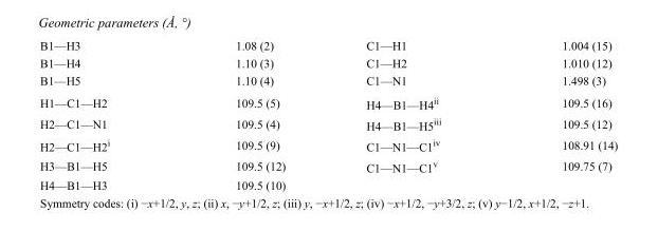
<table><tbody><tr><td>B1—H3</td><td>1.08 (2)</td><td>C1—H1</td><td>1.004 (15)</td></tr><tr><td>B1—H4</td><td>1.10 (3)</td><td>C1—H2</td><td>1.010 (12)</td></tr><tr><td>B1—H5</td><td>1.10 (4)</td><td>C1—N1</td><td>1.498 (3)</td></tr><tr><td>H1—C1—H2</td><td>109.5 (5)</td><td>H4—B1—H4<sup>ii</sup></td><td>109.5 (16)</td></tr><tr><td>H2—C1—N1</td><td>109.5 (4)</td><td>H4—B1—H5<sup>iii</sup></td><td>109.5 (12)</td></tr><tr><td>H2—C1—H2<sup>i</sup></td><td>109.5 (9)</td><td>C1—N1—C1<sup>iv</sup></td><td>108.91 (14)</td></tr><tr><td>H3—B1—H5</td><td>109.5 (12)</td><td>C1—N1—C1<sup>v</sup></td><td>109.75 (7)</td></tr><tr><td>H4—B1—H3</td><td>109.5 (10)</td><td></td><td></td></tr></tbody></table>